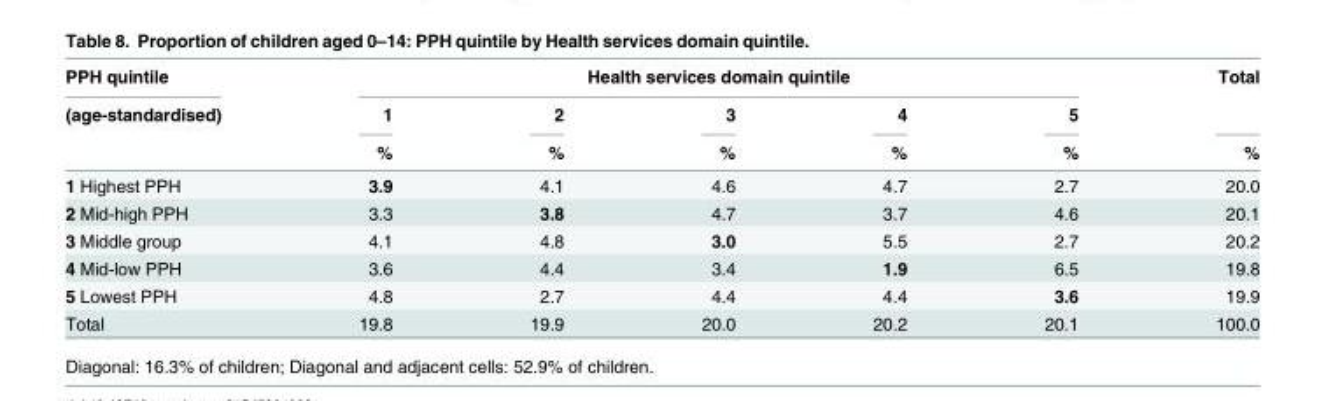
<table><thead><tr><td rowspan="3">PPH quintile (age-standardised)</td><td colspan="5">Health services domain quintile</td><td rowspan="3">Total %</td></tr><tr><td rowspan="2">1 %</td><td rowspan="2">2 %</td><td rowspan="2">3 %</td><td rowspan="2">4 %</td><td rowspan="2">5 %</td></tr><tr></tr></thead><tbody><tr><td>1 Highest PPH</td><td>3.9</td><td>4.1</td><td>4.6</td><td>4.7</td><td>2.7</td><td>20.0</td></tr><tr><td>2 Mid-high PPH</td><td>3.3</td><td>3.8</td><td>4.7</td><td>3.7</td><td>4.6</td><td>20.1</td></tr><tr><td>3 Middle group</td><td>4.1</td><td>4.8</td><td>3.0</td><td>5.5</td><td>2.7</td><td>20.2</td></tr><tr><td>4 Mid-low PPH</td><td>3.6</td><td>4.4</td><td>3.4</td><td>1.9</td><td>6.5</td><td>19.8</td></tr><tr><td>5 Lowest PPH</td><td>4.8</td><td>2.7</td><td>4.4</td><td>4.4</td><td>3.6</td><td>19.9</td></tr><tr><td>Total</td><td>19.8</td><td>19.9</td><td>20.0</td><td>20.2</td><td>20.1</td><td>100.0</td></tr></tbody></table>